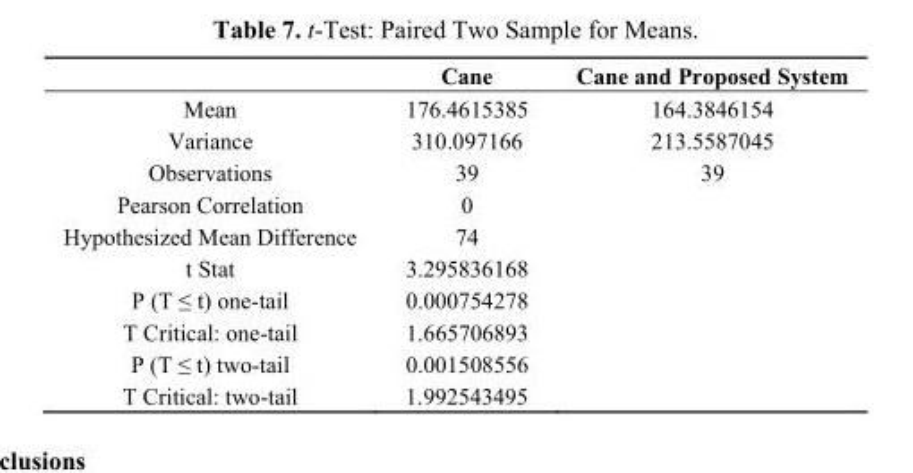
<table><thead><tr><td></td><td>Cane</td><td>Cane and Proposed System</td></tr></thead><tbody><tr><td>Mean</td><td>176.4615385</td><td>164.3846154</td></tr><tr><td>Variance</td><td>310.097166</td><td>213.5587045</td></tr><tr><td>Observations</td><td>39</td><td>39</td></tr><tr><td>Pearson Correlation</td><td>0</td><td></td></tr><tr><td>Hypothesized Mean Difference</td><td>74</td><td></td></tr><tr><td>t Stat</td><td>3.295836168</td><td></td></tr><tr><td>P (T ≤ t) one-tail</td><td>0.000754278</td><td></td></tr><tr><td>T Critical: one-tail</td><td>1.665706893</td><td></td></tr><tr><td>P (T ≤ t) two-tail</td><td>0.001508556</td><td></td></tr><tr><td>T Critical: two-tail</td><td>1.992543495</td><td></td></tr></tbody></table>